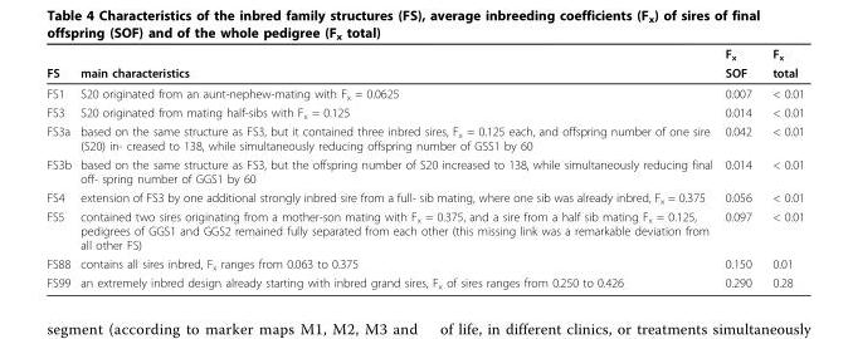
<table><thead><tr><td rowspan="2">FS</td><td rowspan="2">main characteristics</td><td rowspan="2">F<sub>x</sub> SOF</td><td rowspan="2">F<sub>x</sub> total</td></tr><tr></tr></thead><tbody><tr><td>FS1</td><td>S20 originated from an aunt-nephew-mating with F<sub>x</sub> = 0.0625</td><td>0.007</td><td>&lt; 0.01</td></tr><tr><td>FS3</td><td>S20 originated from mating half-sibs with F<sub>x</sub> = 0.125</td><td>0.014</td><td>&lt; 0.01</td></tr><tr><td>FS3a</td><td>based on the same structure as FS3, but it contained three inbred sires, F<sub>x</sub> = 0.125 each, and offspring number of one sire (S20) in- creased to 138, while simultaneously reducing offspring number of GSS1 by 60</td><td>0.042</td><td>&lt; 0.01</td></tr><tr><td>FS3b</td><td>based on the same structure as FS3, but the offspring number of S20 increased to 138, while simultaneously reducing final off- spring number of GGS1 by 60</td><td>0.014</td><td>&lt; 0.01</td></tr><tr><td>FS4</td><td>extension of FS3 by one additional strongly inbred sire from a full- sib mating, where one sib was already inbred, F<sub>x</sub> = 0.375</td><td>0.056</td><td>&lt; 0.01</td></tr><tr><td>FS5</td><td>contained two sires originating from a mother-son mating with F<sub>x</sub> = 0.375, and a sire from a half sib mating F<sub>x</sub> = 0.125, pedigrees of GGS1 and GGS2 remained fully separated from each other (this missing link was a remarkable deviation from all other FS)</td><td>0.097</td><td>&lt; 0.01</td></tr><tr><td>FS88</td><td>contains all sires inbred, F<sub>x</sub> ranges from 0.063 to 0.375</td><td>0.150</td><td>0.01</td></tr><tr><td>FS99</td><td>an extremely inbred design already starting with inbred grand sires, F<sub>x</sub> of sires ranges from 0.250 to 0.426</td><td>0.290</td><td>0.28</td></tr></tbody></table>